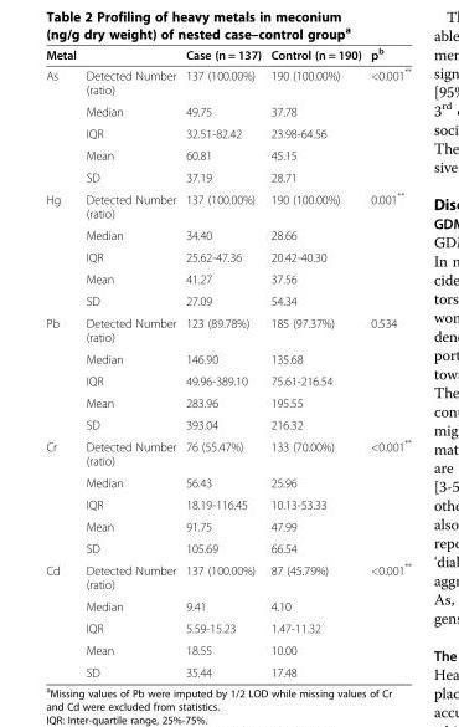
<table><thead><tr><td>Metal</td><td></td><td>Case (n = 137)</td><td>Control (n = 190)</td><td>p<sup>b</sup></td></tr></thead><tbody><tr><td rowspan="5">As</td><td>Detected Number (ratio)</td><td>137 (100.00%)</td><td>190 (100.00%)</td><td rowspan="5">&lt;0.001**</td></tr><tr><td>Median</td><td>49.75</td><td>37.78</td></tr><tr><td>IQR</td><td>32.51-82.42</td><td>23.98-64.56</td></tr><tr><td>Mean</td><td>60.81</td><td>45.15</td></tr><tr><td>SD</td><td>37.19</td><td>28.71</td></tr><tr><td rowspan="5">Hg</td><td>Detected Number (ratio)</td><td>137 (100.00%)</td><td>190 (100.00%)</td><td rowspan="5">0.001**</td></tr><tr><td>Median</td><td>34.40</td><td>28.66</td></tr><tr><td>IQR</td><td>25.62-47.36</td><td>20.42-40.30</td></tr><tr><td>Mean</td><td>41.27</td><td>37.56</td></tr><tr><td>SD</td><td>27.09</td><td>54.34</td></tr><tr><td rowspan="5">Pb</td><td>Detected Number (ratio)</td><td>123 (89.78%)</td><td>185 (97.37%)</td><td rowspan="5">0.534</td></tr><tr><td>Median</td><td>146.90</td><td>135.68</td></tr><tr><td>IQR</td><td>49.96-389.10</td><td>75.61-216.54</td></tr><tr><td>Mean</td><td>283.96</td><td>195.55</td></tr><tr><td>SD</td><td>393.04</td><td>216.32</td></tr><tr><td rowspan="5">Cr</td><td>Detected Number (ratio)</td><td>76 (55.47%)</td><td>133 (70.00%)</td><td rowspan="5">&lt;0.001**</td></tr><tr><td>Median</td><td>56.43</td><td>25.96</td></tr><tr><td>IQR</td><td>18.19-116.45</td><td>10.13-53.33</td></tr><tr><td>Mean</td><td>91.75</td><td>47.99</td></tr><tr><td>SD</td><td>105.69</td><td>66.54</td></tr><tr><td rowspan="5">Cd</td><td>Detected Number (ratio)</td><td>137 (100.00%)</td><td>87 (45.79%)</td><td rowspan="5">&lt;0.001**</td></tr><tr><td>Median</td><td>9.41</td><td>4.10</td></tr><tr><td>IQR</td><td>5.59-15.23</td><td>1.47-11.32</td></tr><tr><td>Mean</td><td>18.55</td><td>10.00</td></tr><tr><td>SD</td><td>35.44</td><td>17.48</td></tr></tbody></table>